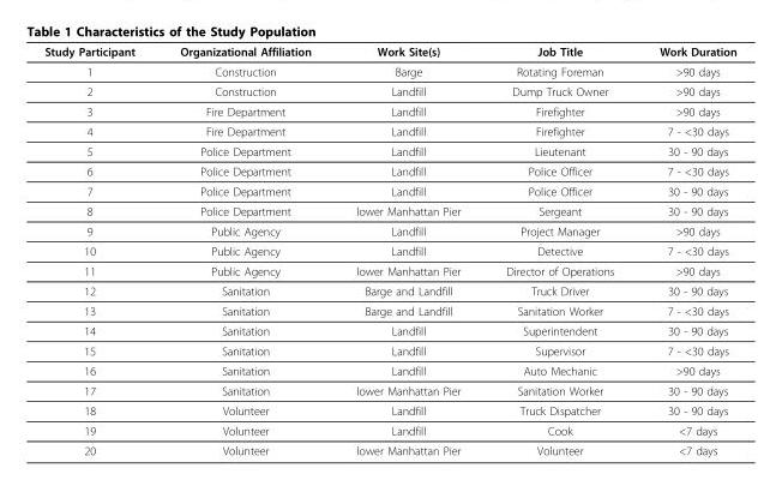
<table><thead><tr><td>Study Participant</td><td>Organizational Affiliation</td><td>Work Site(s)</td><td>Job Title</td><td>Work Duration</td></tr></thead><tbody><tr><td>1</td><td>Construction</td><td>Barge</td><td>Rotating Foreman</td><td>&gt;90 days</td></tr><tr><td>2</td><td>Construction</td><td>Landfill</td><td>Dump Truck Owner</td><td>&gt;90 days</td></tr><tr><td>3</td><td>Fire Department</td><td>Landfill</td><td>Firefighter</td><td>&gt;90 days</td></tr><tr><td>4</td><td>Fire Department</td><td>Landfill</td><td>Firefighter</td><td>7 - &lt;30 days</td></tr><tr><td>5</td><td>Police Department</td><td>Landfill</td><td>Lieutenant</td><td>30 - 90 days</td></tr><tr><td>6</td><td>Police Department</td><td>Landfill</td><td>Police Officer</td><td>7 - &lt;30 days</td></tr><tr><td>7</td><td>Police Department</td><td>Landfill</td><td>Police Officer</td><td>30 - 90 days</td></tr><tr><td>8</td><td>Police Department</td><td>lower Manhattan Pier</td><td>Sergeant</td><td>30 - 90 days</td></tr><tr><td>9</td><td>Public Agency</td><td>Landfill</td><td>Project Manager</td><td>&gt;90 days</td></tr><tr><td>10</td><td>Public Agency</td><td>Landfill</td><td>Detective</td><td>7 - &lt;30 days</td></tr><tr><td>11</td><td>Public Agency</td><td>lower Manhattan Pier</td><td>Director of Operations</td><td>&gt;90 days</td></tr><tr><td>12</td><td>Sanitation</td><td>Barge and Landfill</td><td>Truck Driver</td><td>30 - 90 days</td></tr><tr><td>13</td><td>Sanitation</td><td>Barge and Landfill</td><td>Sanitation Worker</td><td>7 - &lt;30 days</td></tr><tr><td>14</td><td>Sanitation</td><td>Landfill</td><td>Superintendent</td><td>30 - 90 days</td></tr><tr><td>15</td><td>Sanitation</td><td>Landfill</td><td>Supervisor</td><td>7 - &lt;30 days</td></tr><tr><td>16</td><td>Sanitation</td><td>Landfill</td><td>Auto Mechanic</td><td>&gt;90 days</td></tr><tr><td>17</td><td>Sanitation</td><td>lower Manhattan Pier</td><td>Sanitation Worker</td><td>30 - 90 days</td></tr><tr><td>18</td><td>Volunteer</td><td>Landfill</td><td>Truck Dispatcher</td><td>30 - 90 days</td></tr><tr><td>19</td><td>Volunteer</td><td>Landfill</td><td>Cook</td><td>&lt;7 days</td></tr><tr><td>20</td><td>Volunteer</td><td>lower Manhattan Pier</td><td>Volunteer</td><td>&lt;7 days</td></tr></tbody></table>